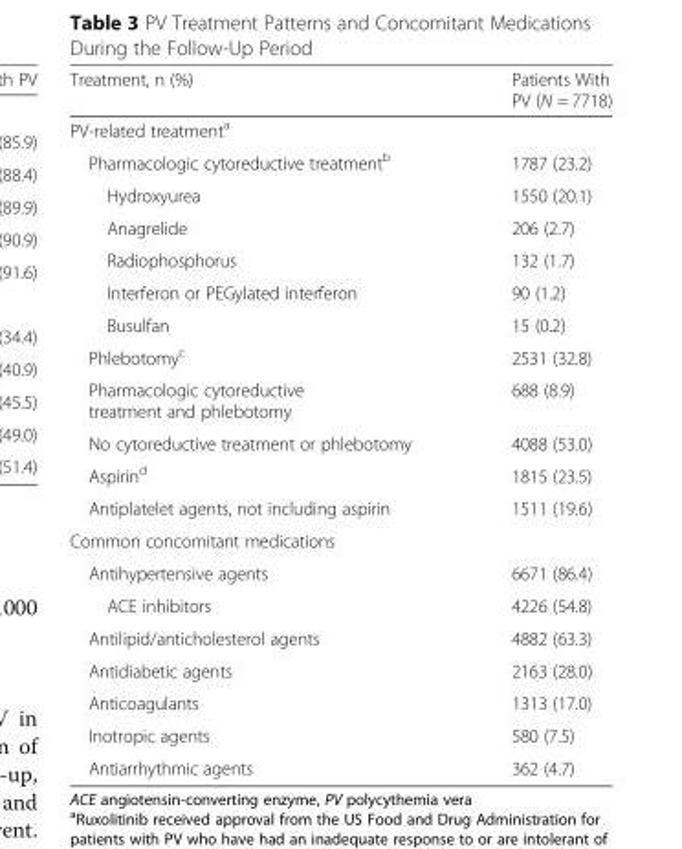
<table><thead><tr><td>Treatment, n (%)</td><td>Patients With PV (N = 7718)</td></tr></thead><tbody><tr><td colspan="2">PV-related treatment<sup>a</sup></td></tr><tr><td>Pharmacologic cytoreductive treatment<sup>b</sup></td><td>1787 (23.2)</td></tr><tr><td>Hydroxyurea</td><td>1550 (20.1)</td></tr><tr><td>Anagrelide</td><td>206 (2.7)</td></tr><tr><td>Radiophosphorus</td><td>132 (1.7)</td></tr><tr><td>Interferon or PEGylated interferon</td><td>90 (1.2)</td></tr><tr><td>Busulfan</td><td>15 (0.2)</td></tr><tr><td>Phlebotomy<sup>c</sup></td><td>2531 (32.8)</td></tr><tr><td>Pharmacologic cytoreductive treatment and phlebotomy</td><td>688 (8.9)</td></tr><tr><td>No cytoreductive treatment or phlebotomy</td><td>4088 (53.0)</td></tr><tr><td>Aspirin<sup>d</sup></td><td>1815 (23.5)</td></tr><tr><td>Antiplatelet agents, not including aspirin</td><td>1511 (19.6)</td></tr><tr><td colspan="2">Common concomitant medications</td></tr><tr><td>Antihypertensive agents</td><td>6671 (86.4)</td></tr><tr><td>ACE inhibitors</td><td>4226 (54.8)</td></tr><tr><td>Antilipid/anticholesterol agents</td><td>4882 (63.3)</td></tr><tr><td>Antidiabetic agents</td><td>2163 (28.0)</td></tr><tr><td>Anticoagulants</td><td>1313 (17.0)</td></tr><tr><td>Inotropic agents</td><td>580 (7.5)</td></tr><tr><td>Antiarrhythmic agents</td><td>362 (4.7)</td></tr></tbody></table>